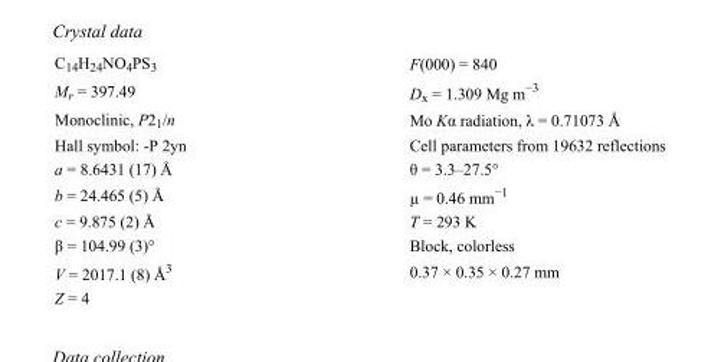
<table><tbody><tr><td>C<sub>14</sub>H<sub>24</sub>NO<sub>4</sub>PS<sub>3</sub></td><td>F(000) = 840</td></tr><tr><td>M<sub>r</sub> = 397.49</td><td>D<sub>x</sub> = 1.309 Mg m<sup>−3</sup></td></tr><tr><td>Monoclinic, P2<sub>1</sub>/n</td><td>Mo Kα radiation, λ = 0.71073 Å</td></tr><tr><td>Hall symbol: -P 2yn</td><td>Cell parameters from 19632 reflections</td></tr><tr><td>a = 8.6431 (17) Å</td><td>θ = 3.3–27.5°</td></tr><tr><td>b = 24.465 (5) Å</td><td>µ = 0.46 mm<sup>−1</sup></td></tr><tr><td>c = 9.875 (2) Å</td><td>T = 293 K</td></tr><tr><td>β = 104.99 (3)°</td><td>Block, colorless</td></tr><tr><td>V = 2017.1 (8) Å<sup>3</sup></td><td>0.37 × 0.35 × 0.27 mm</td></tr><tr><td>Z = 4</td><td></td></tr></tbody></table>